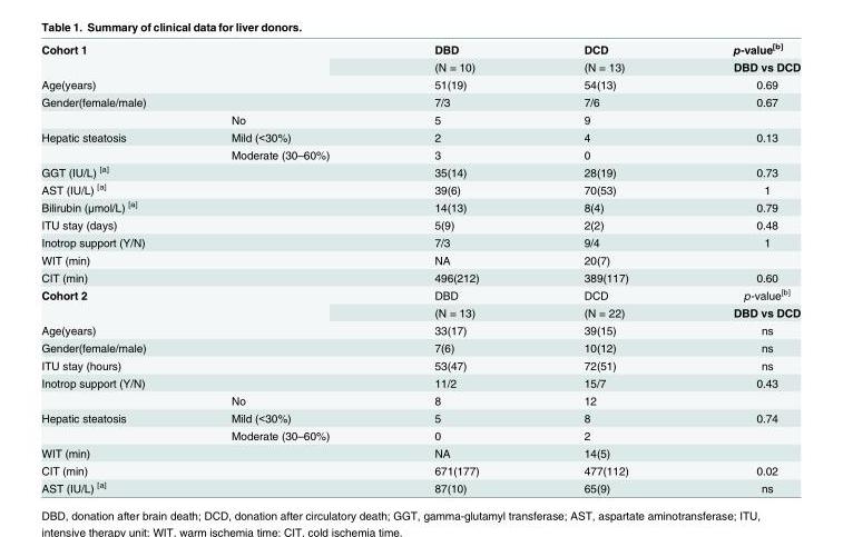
<table><tbody><tr><td rowspan="2" colspan="2">Cohort 1</td><td>DBD</td><td>DCD</td><td>p-value<sup>[b]</sup></td></tr><tr><td>(N = 10)</td><td>(N = 13)</td><td>DBD vs DCD</td></tr><tr><td colspan="2">Age(years)</td><td>51(19)</td><td>54(13)</td><td>0.69</td></tr><tr><td colspan="2">Gender(female/male)</td><td>7/3</td><td>7/6</td><td>0.67</td></tr><tr><td></td><td>No</td><td>5</td><td>9</td><td></td></tr><tr><td rowspan="2">Hepatic steatosis</td><td>Mild (&lt;30%)</td><td>2</td><td>4</td><td>0.13</td></tr><tr><td>Moderate (30–60%)</td><td>3</td><td>0</td><td></td></tr><tr><td colspan="2">GGT (IU/L) <sup>[a]</sup></td><td>35(14)</td><td>28(19)</td><td>0.73</td></tr><tr><td colspan="2">AST (IU/L) <sup>[a]</sup></td><td>39(6)</td><td>70(53)</td><td>1</td></tr><tr><td colspan="2">Bilirubin (μmol/L) <sup>[a]</sup></td><td>14(13)</td><td>8(4)</td><td>0.79</td></tr><tr><td colspan="2">ITU stay (days)</td><td>5(9)</td><td>2(2)</td><td>0.48</td></tr><tr><td colspan="2">Inotrop support (Y/N)</td><td>7/3</td><td>9/4</td><td>1</td></tr><tr><td colspan="2">WIT (min)</td><td>NA</td><td>20(7)</td><td></td></tr><tr><td colspan="2">CIT (min)</td><td>496(212)</td><td>389(117)</td><td>0.60</td></tr><tr><td rowspan="2" colspan="2">Cohort 2</td><td>DBD</td><td>DCD</td><td>p-value<sup>[b]</sup></td></tr><tr><td>(N = 13)</td><td>(N = 22)</td><td>DBD vs DCD</td></tr><tr><td colspan="2">Age(years)</td><td>33(17)</td><td>39(15)</td><td>ns</td></tr><tr><td colspan="2">Gender(female/male)</td><td>7(6)</td><td>10(12)</td><td>ns</td></tr><tr><td colspan="2">ITU stay (hours)</td><td>53(47)</td><td>72(51)</td><td>ns</td></tr><tr><td colspan="2">Inotrop support (Y/N)</td><td>11/2</td><td>15/7</td><td>0.43</td></tr><tr><td></td><td>No</td><td>8</td><td>12</td><td></td></tr><tr><td rowspan="2">Hepatic steatosis</td><td>Mild (&lt;30%)</td><td>5</td><td>8</td><td>0.74</td></tr><tr><td>Moderate (30–60%)</td><td>0</td><td>2</td><td></td></tr><tr><td colspan="2">WIT (min)</td><td>NA</td><td>14(5)</td><td></td></tr><tr><td colspan="2">CIT (min)</td><td>671(177)</td><td>477(112)</td><td>0.02</td></tr><tr><td colspan="2">AST (IU/L) <sup>[a]</sup></td><td>87(10)</td><td>65(9)</td><td>ns</td></tr></tbody></table>